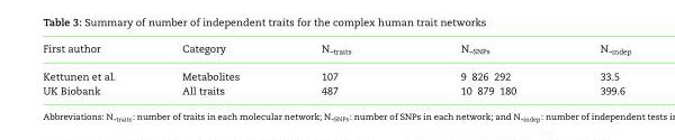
<table><thead><tr><td>First author</td><td>Category</td><td>N traits</td><td>N SNPs</td><td>N indep</td></tr></thead><tbody><tr><td>Kettunen et al.</td><td>Metabolites</td><td>107</td><td>9 826 292</td><td>33.5</td></tr><tr><td>UK Biobank</td><td>All traits</td><td>487</td><td>10 879 180</td><td>399.6</td></tr></tbody></table>